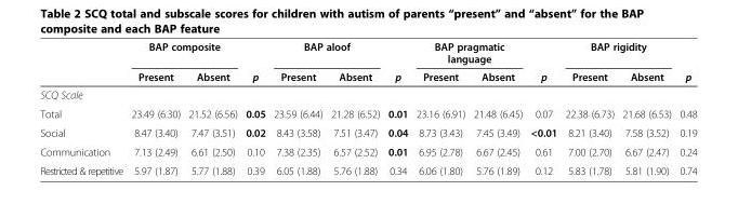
<table><thead><tr><td rowspan="2"></td><td colspan="2">BAP composite</td><td rowspan="2">p</td><td colspan="2">BAP aloof</td><td rowspan="2">p</td><td colspan="2">BAP pragmatic language</td><td rowspan="2">p</td><td colspan="2">BAP rigidity</td><td rowspan="2">p</td></tr><tr><td>Present</td><td>Absent</td><td>Present</td><td>Absent</td><td>Present</td><td>Absent</td><td>Present</td><td>Absent</td></tr></thead><tbody><tr><td colspan="13">SCQ Scale</td></tr><tr><td>Total</td><td>23.49 (6.30)</td><td>21.52 (6.56)</td><td>0.05</td><td>23.59 (6.44)</td><td>21.28 (6.52)</td><td>0.01</td><td>23.16 (6.91)</td><td>21.48 (6.45)</td><td>0.07</td><td>22.38 (6.73)</td><td>21.68 (6.53)</td><td>0.48</td></tr><tr><td>Social</td><td>8.47 (3.40)</td><td>7.47 (3.51)</td><td>0.02</td><td>8.43 (3.58)</td><td>7.51 (3.47)</td><td>0.04</td><td>8.73 (3.43)</td><td>7.45 (3.49)</td><td>&lt;0.01</td><td>8.21 (3.40)</td><td>7.58 (3.52)</td><td>0.19</td></tr><tr><td>Communication</td><td>7.13 (2.49)</td><td>6.61 (2.50)</td><td>0.10</td><td>7.38 (2.35)</td><td>6.57 (2.52)</td><td>0.01</td><td>6.95 (2.78)</td><td>6.67 (2.45)</td><td>0.61</td><td>7.00 (2.70)</td><td>6.67 (2.47)</td><td>0.24</td></tr><tr><td>Restricted &amp; repetitive</td><td>5.97 (1.87)</td><td>5.77 (1.88)</td><td>0.39</td><td>6.05 (1.88)</td><td>5.76 (1.88)</td><td>0.34</td><td>6.06 (1.80)</td><td>5.76 (1.89)</td><td>0.12</td><td>5.83 (1.78)</td><td>5.81 (1.90)</td><td>0.74</td></tr></tbody></table>